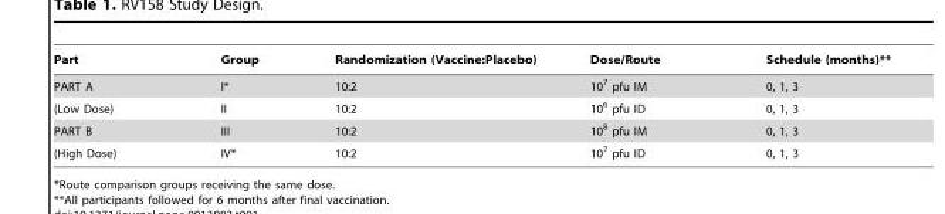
<table><thead><tr><td>Part</td><td>Group</td><td>Randomization (Vaccine:Placebo)</td><td>Dose/Route</td><td>Schedule (months)**</td></tr></thead><tbody><tr><td>PART A</td><td>I*</td><td>10:2</td><td>10<sup>7</sup> pfu IM</td><td>0, 1, 3</td></tr><tr><td>(Low Dose)</td><td>II</td><td>10:2</td><td>10<sup>6</sup> pfu ID</td><td>0, 1, 3</td></tr><tr><td>PART B</td><td>III</td><td>10:2</td><td>10<sup>8</sup> pfu IM</td><td>0, 1, 3</td></tr><tr><td>(High Dose)</td><td>IV*</td><td>10:2</td><td>10<sup>7</sup> pfu ID</td><td>0, 1, 3</td></tr></tbody></table>